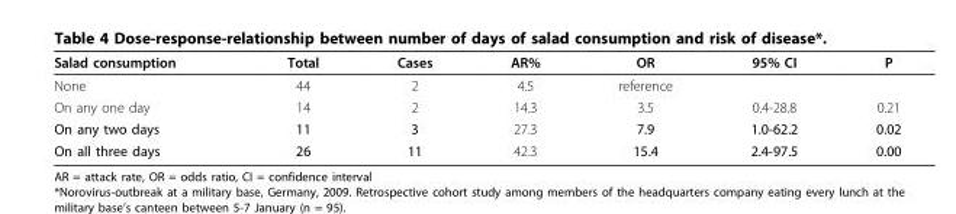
<table><thead><tr><td>Salad consumption</td><td>Total</td><td>Cases</td><td>AR%</td><td>OR</td><td>95% CI</td><td>P</td></tr></thead><tbody><tr><td>None</td><td>44</td><td>2</td><td>4.5</td><td>reference</td><td></td><td></td></tr><tr><td>On any one day</td><td>14</td><td>2</td><td>14.3</td><td>3.5</td><td>0.4-28.8</td><td>0.21</td></tr><tr><td>On any two days</td><td>11</td><td>3</td><td>27.3</td><td>7.9</td><td>1.0-62.2</td><td>0.02</td></tr><tr><td>On all three days</td><td>26</td><td>11</td><td>42.3</td><td>15.4</td><td>2.4-97.5</td><td>0.00</td></tr></tbody></table>